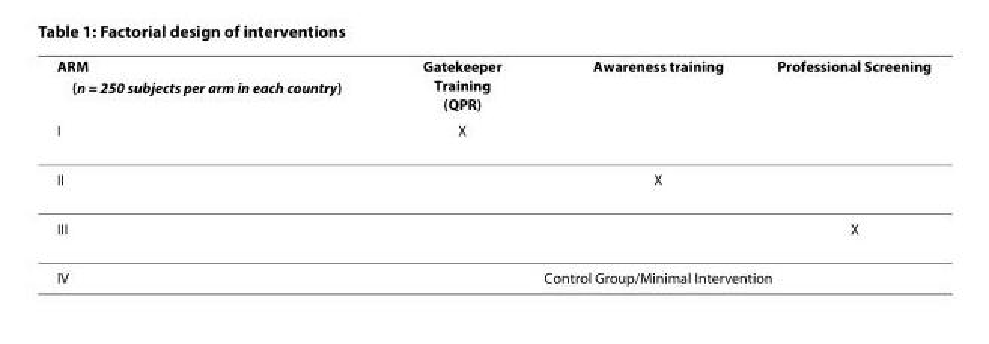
<table><thead><tr><td rowspan="2">ARM (n = 250 subjects per arm in each country) I</td><td rowspan="2">Gatekeeper Training (QPR) X</td><td rowspan="2">Awareness training</td><td rowspan="2">Professional Screening</td></tr><tr></tr></thead><tbody><tr><td>II</td><td></td><td>X</td><td></td></tr><tr><td>III</td><td></td><td></td><td>X</td></tr><tr><td>IV</td><td colspan="3">Control Group/Minimal Intervention</td></tr></tbody></table>